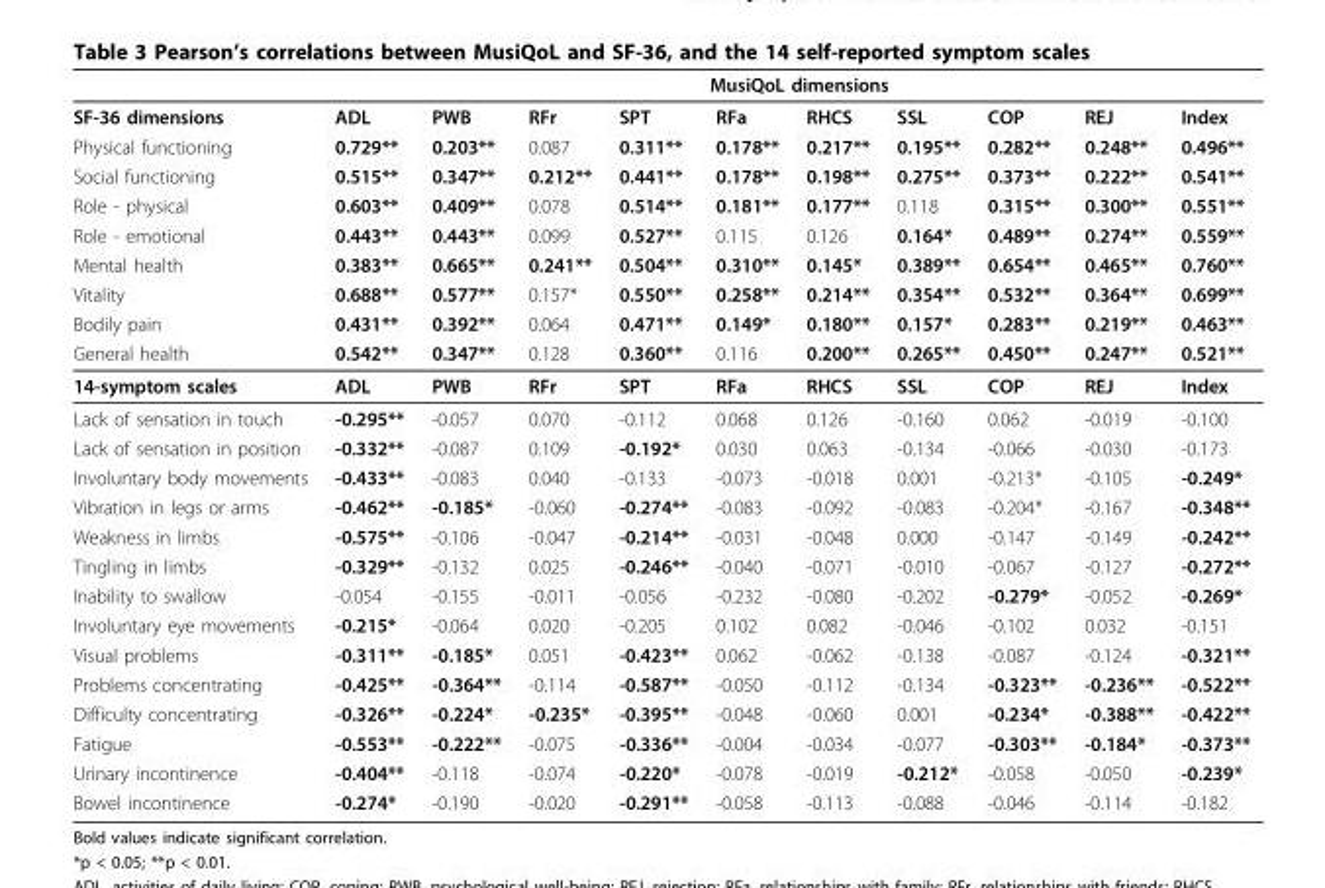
<table><thead><tr><td rowspan="2">SF-36 dimensions</td><td colspan="10">MusiQoL dimensions</td></tr><tr><td>ADL</td><td>PWB</td><td>RFr</td><td>SPT</td><td>RFa</td><td>RHCS</td><td>SSL</td><td>COP</td><td>REJ</td><td>Index</td></tr></thead><tbody><tr><td>Physical functioning</td><td>0.729**</td><td>0.203**</td><td>0.087</td><td>0.311**</td><td>0.178**</td><td>0.217**</td><td>0.195**</td><td>0.282**</td><td>0.248**</td><td>0.496**</td></tr><tr><td>Social functioning</td><td>0.515**</td><td>0.347**</td><td>0.212**</td><td>0.441**</td><td>0.178**</td><td>0.198**</td><td>0.275**</td><td>0.373**</td><td>0.222**</td><td>0.541**</td></tr><tr><td>Role - physical</td><td>0.603**</td><td>0.409**</td><td>0.078</td><td>0.514**</td><td>0.181**</td><td>0.177**</td><td>0.118</td><td>0.315**</td><td>0.300**</td><td>0.551**</td></tr><tr><td>Role - emotional</td><td>0.443**</td><td>0.443**</td><td>0.099</td><td>0.527**</td><td>0.115</td><td>0.126</td><td>0.164*</td><td>0.489**</td><td>0.274**</td><td>0.559**</td></tr><tr><td>Mental health</td><td>0.383**</td><td>0.665**</td><td>0.241**</td><td>0.504**</td><td>0.310**</td><td>0.145*</td><td>0.389**</td><td>0.654**</td><td>0.465**</td><td>0.760**</td></tr><tr><td>Vitality</td><td>0.688**</td><td>0.577**</td><td>0.157*</td><td>0.550**</td><td>0.258**</td><td>0.214**</td><td>0.354**</td><td>0.532**</td><td>0.364**</td><td>0.699**</td></tr><tr><td>Bodily pain</td><td>0.431**</td><td>0.392**</td><td>0.064</td><td>0.471**</td><td>0.149*</td><td>0.180**</td><td>0.157*</td><td>0.283**</td><td>0.219**</td><td>0.463**</td></tr><tr><td>General health</td><td>0.542**</td><td>0.347**</td><td>0.128</td><td>0.360**</td><td>0.116</td><td>0.200**</td><td>0.265**</td><td>0.450**</td><td>0.247**</td><td>0.521**</td></tr><tr><td>14-symptom scales</td><td>ADL</td><td>PWB</td><td>RFr</td><td>SPT</td><td>RFa</td><td>RHCS</td><td>SSL</td><td>COP</td><td>REJ</td><td>Index</td></tr><tr><td>Lack of sensation in touch</td><td>-0.295**</td><td>-0.057</td><td>0.070</td><td>-0.112</td><td>0.068</td><td>0.126</td><td>-0.160</td><td>0.062</td><td>-0.019</td><td>-0.100</td></tr><tr><td>Lack of sensation in position</td><td>-0.332**</td><td>-0.087</td><td>0.109</td><td>-0.192*</td><td>0.030</td><td>0.063</td><td>-0.134</td><td>-0.066</td><td>-0.030</td><td>-0.173</td></tr><tr><td>Involuntary body movements</td><td>-0.433**</td><td>-0.083</td><td>0.040</td><td>-0.133</td><td>-0.073</td><td>-0.018</td><td>0.001</td><td>-0.213*</td><td>-0.105</td><td>-0.249*</td></tr><tr><td>Vibration in legs or arms</td><td>-0.462**</td><td>-0.185*</td><td>-0.060</td><td>-0.274**</td><td>-0.083</td><td>-0.092</td><td>-0.083</td><td>-0.204*</td><td>-0.167</td><td>-0.348**</td></tr><tr><td>Weakness in limbs</td><td>-0.575**</td><td>-0.106</td><td>-0.047</td><td>-0.214**</td><td>-0.031</td><td>-0.048</td><td>0.000</td><td>-0.147</td><td>-0.149</td><td>-0.242**</td></tr><tr><td>Tingling in limbs</td><td>-0.329**</td><td>-0.132</td><td>0.025</td><td>-0.246**</td><td>-0.040</td><td>-0.071</td><td>-0.010</td><td>-0.067</td><td>-0.127</td><td>-0.272**</td></tr><tr><td>Inability to swallow</td><td>-0.054</td><td>-0.155</td><td>-0.011</td><td>-0.056</td><td>-0.232</td><td>-0.080</td><td>-0.202</td><td>-0.279*</td><td>-0.052</td><td>-0.269*</td></tr><tr><td>Involuntary eye movements</td><td>-0.215*</td><td>-0.064</td><td>0.020</td><td>-0.205</td><td>0.102</td><td>0.082</td><td>-0.046</td><td>-0.102</td><td>0.032</td><td>-0.151</td></tr><tr><td>Visual problems</td><td>-0.311**</td><td>-0.185*</td><td>0.051</td><td>-0.423**</td><td>0.062</td><td>-0.062</td><td>-0.138</td><td>-0.087</td><td>-0.124</td><td>-0.321**</td></tr><tr><td>Problems concentrating</td><td>-0.425**</td><td>-0.364**</td><td>-0.114</td><td>-0.587**</td><td>-0.050</td><td>-0.112</td><td>-0.134</td><td>-0.323**</td><td>-0.236**</td><td>-0.522**</td></tr><tr><td>Difficulty concentrating</td><td>-0.326**</td><td>-0.224*</td><td>-0.235*</td><td>-0.395**</td><td>-0.048</td><td>-0.060</td><td>0.001</td><td>-0.234*</td><td>-0.388**</td><td>-0.422**</td></tr><tr><td>Fatigue</td><td>-0.553**</td><td>-0.222**</td><td>-0.075</td><td>-0.336**</td><td>-0.004</td><td>-0.034</td><td>-0.077</td><td>-0.303**</td><td>-0.184*</td><td>-0.373**</td></tr><tr><td>Urinary incontinence</td><td>-0.404**</td><td>-0.118</td><td>-0.074</td><td>-0.220*</td><td>-0.078</td><td>-0.019</td><td>-0.212*</td><td>-0.058</td><td>-0.050</td><td>-0.239*</td></tr><tr><td>Bowel incontinence</td><td>-0.274*</td><td>-0.190</td><td>-0.020</td><td>-0.291**</td><td>-0.058</td><td>-0.113</td><td>-0.088</td><td>-0.046</td><td>-0.114</td><td>-0.182</td></tr></tbody></table>